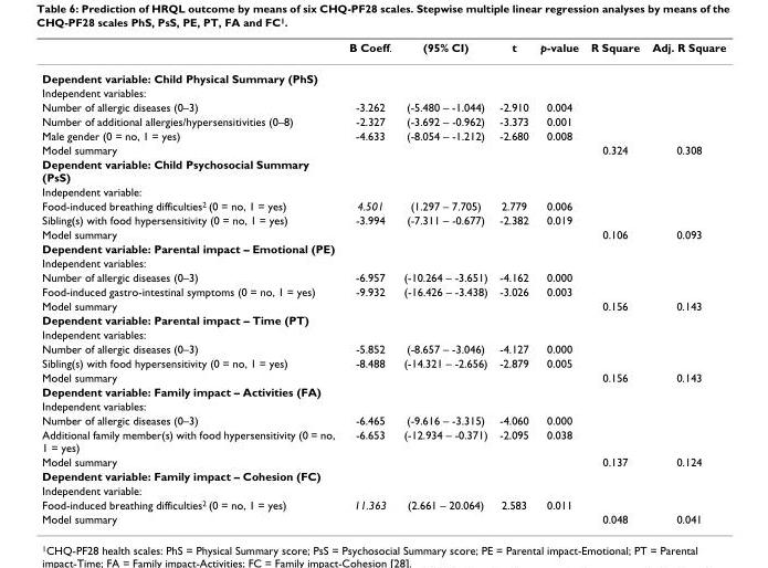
<table><thead><tr><td></td><td>B Coeff.</td><td>(95% CI)</td><td>t</td><td>p-value</td><td>R Square</td><td>Adj. R Square</td></tr></thead><tbody><tr><td colspan="7">Dependent variable: Child Physical Summary (PhS)</td></tr><tr><td colspan="7">Independent variables:</td></tr><tr><td>Number of allergic diseases (0–3)</td><td>-3.262</td><td>(-5.480 – -1.044)</td><td>-2.910</td><td>0.004</td><td></td><td></td></tr><tr><td>Number of additional allergies/hypersensitivities (0–8)</td><td>-2.327</td><td>(-3.692 – -0.962)</td><td>-3.373</td><td>0.001</td><td></td><td></td></tr><tr><td>Male gender (0 = no, 1 = yes)</td><td>-4.633</td><td>(-8.054 – -1.212)</td><td>-2.680</td><td>0.008</td><td></td><td></td></tr><tr><td>Model summary</td><td></td><td></td><td></td><td></td><td>0.324</td><td>0.308</td></tr><tr><td colspan="7">Dependent variable: Child Psychosocial Summary (PsS)</td></tr><tr><td colspan="7">Independent variable:</td></tr><tr><td>Food-induced breathing difficulties<sup>2</sup> (0 = no, 1 = yes)</td><td>4.501</td><td>(1.297 – 7.705)</td><td>2.779</td><td>0.006</td><td></td><td></td></tr><tr><td>Sibling(s) with food hypersensitivity (0 = no, 1 = yes)</td><td>-3.994</td><td>(-7.311 – -0.677)</td><td>-2.382</td><td>0.019</td><td></td><td></td></tr><tr><td>Model summary</td><td></td><td></td><td></td><td></td><td>0.106</td><td>0.093</td></tr><tr><td colspan="7">Dependent variable: Parental impact – Emotional (PE)</td></tr><tr><td colspan="7">Independent variables:</td></tr><tr><td>Number of allergic diseases (0–3)</td><td>-6.957</td><td>(-10.264 – -3.651)</td><td>-4.162</td><td>0.000</td><td></td><td></td></tr><tr><td>Food-induced gastro-intestinal symptoms (0 = no, 1 = yes)</td><td>-9.932</td><td>(-16.426 – -3.438)</td><td>-3.026</td><td>0.003</td><td></td><td></td></tr><tr><td>Model summary</td><td></td><td></td><td></td><td></td><td>0.156</td><td>0.143</td></tr><tr><td colspan="7">Dependent variable: Parental impact – Time (PT)</td></tr><tr><td colspan="7">Independent variables:</td></tr><tr><td>Number of allergic diseases (0–3)</td><td>-5.852</td><td>(-8.657 – -3.046)</td><td>-4.127</td><td>0.000</td><td></td><td></td></tr><tr><td>Sibling(s) with food hypersensitivity (0 = no, 1 = yes)</td><td>-8.488</td><td>(-14.321 – -2.656)</td><td>-2.879</td><td>0.005</td><td></td><td></td></tr><tr><td>Model summary</td><td></td><td></td><td></td><td></td><td>0.156</td><td>0.143</td></tr><tr><td colspan="7">Dependent variable: Family impact – Activities (FA)</td></tr><tr><td colspan="7">Independent variables:</td></tr><tr><td>Number of allergic diseases (0–3)</td><td>-6.465</td><td>(-9.616 – -3.315)</td><td>-4.060</td><td>0.000</td><td></td><td></td></tr><tr><td>Additional family member(s) with food hypersensitivity (0 = no, 1 = yes)</td><td>-6.653</td><td>(-12.934 – -0.371)</td><td>-2.095</td><td>0.038</td><td></td><td></td></tr><tr><td>Model summary</td><td></td><td></td><td></td><td></td><td>0.137</td><td>0.124</td></tr><tr><td colspan="7">Dependent variable: Family impact – Cohesion (FC)</td></tr><tr><td colspan="7">Independent variable:</td></tr><tr><td>Food-induced breathing difficulties<sup>2</sup> (0 = no, 1 = yes)</td><td>11.363</td><td>(2.661 – 20.064)</td><td>2.583</td><td>0.011</td><td></td><td></td></tr><tr><td>Model summary</td><td></td><td></td><td></td><td></td><td>0.048</td><td>0.041</td></tr></tbody></table>